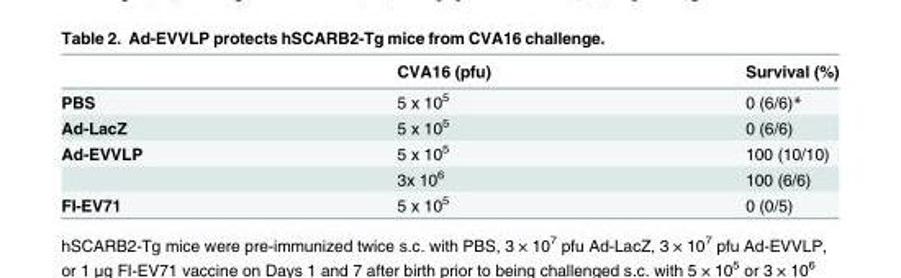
<table><thead><tr><td></td><td>CVA16 (pfu)</td><td>Survival (%)</td></tr></thead><tbody><tr><td>PBS</td><td>5 x 10<sup>5</sup></td><td>0 (6/6)*</td></tr><tr><td>Ad-LacZ</td><td>5 x 10<sup>5</sup></td><td>0 (6/6)</td></tr><tr><td rowspan="2">Ad-EVVLP</td><td>5 x 10<sup>5</sup></td><td>100 (10/10)</td></tr><tr><td>3x 10<sup>6</sup></td><td>100 (6/6)</td></tr><tr><td>FI-EV71</td><td>5 x 10<sup>5</sup></td><td>0 (0/5)</td></tr></tbody></table>